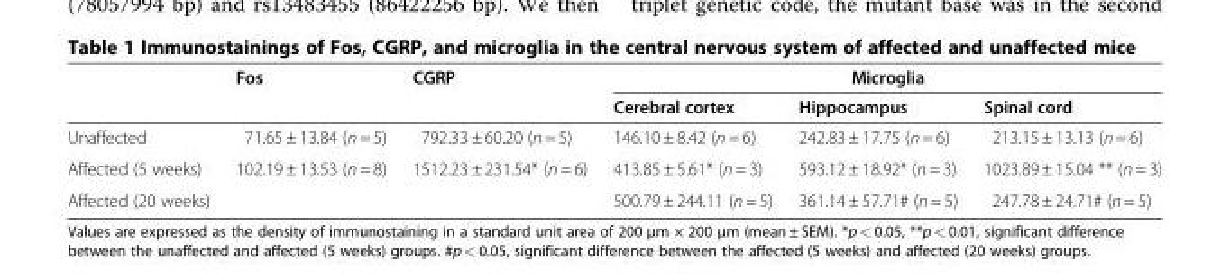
<table><thead><tr><td rowspan="2"></td><td rowspan="2">Fos</td><td rowspan="2">CGRP</td><td colspan="3">Microglia</td></tr><tr><td>Cerebral cortex</td><td>Hippocampus</td><td>Spinal cord</td></tr></thead><tbody><tr><td>Unaffected</td><td>71.65 ± 13.84 (n = 5)</td><td>792.33 ± 60.20 (n = 5)</td><td>146.10 ± 8.42 (n = 6)</td><td>242.83 ± 17.75 (n = 6)</td><td>213.15 ± 13.13 (n = 6)</td></tr><tr><td>Affected (5 weeks)</td><td>102.19 ± 13.53 (n = 8)</td><td>1512.23 ± 231.54* (n = 6)</td><td>413.85 ± 5.61* (n = 3)</td><td>593.12 ± 18.92* (n = 3)</td><td>1023.89 ± 15.04 ** (n = 3)</td></tr><tr><td>Affected (20 weeks)</td><td></td><td></td><td>500.79 ± 244.11 (n = 5)</td><td>361.14 ± 57.71# (n = 5)</td><td>247.78 ± 24.71# (n = 5)</td></tr></tbody></table>